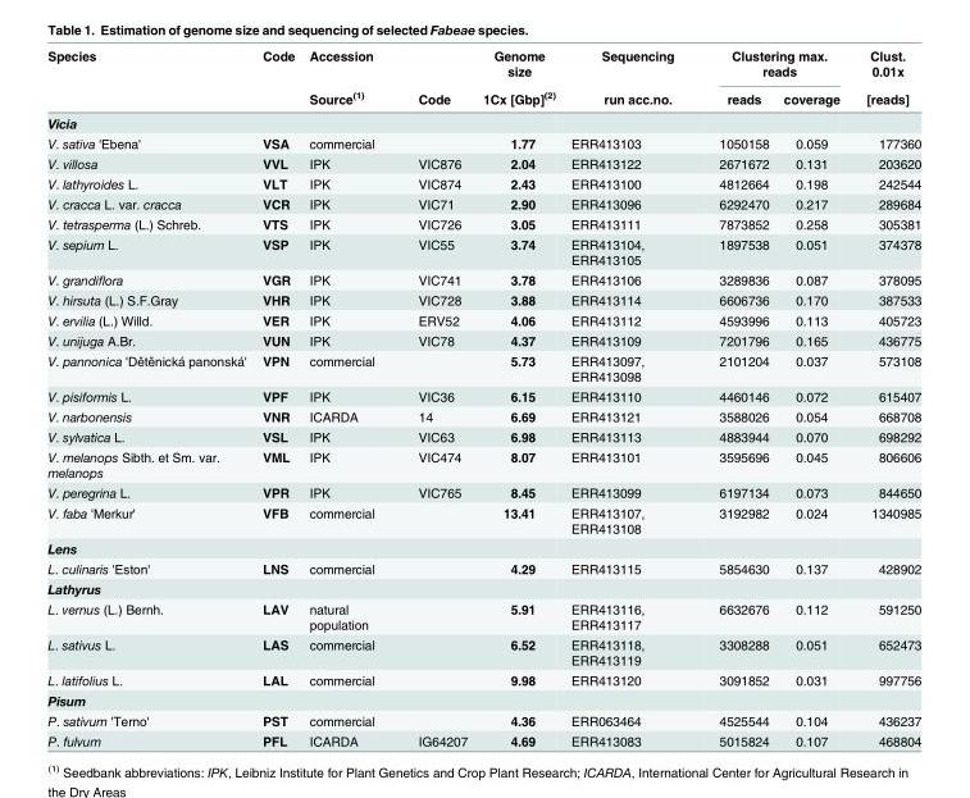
<table><thead><tr><td rowspan="2">Species</td><td rowspan="2">Code</td><td rowspan="2">Accession Source<sup>(1)</sup></td><td rowspan="2">Code</td><td rowspan="2">Genome size 1Cx [Gbp]<sup>(2)</sup></td><td rowspan="2">Sequencing run acc.no.</td><td colspan="2">Clustering max. reads</td><td rowspan="2">Clust. 0.01x [reads]</td></tr><tr><td>reads</td><td>coverage</td></tr></thead><tbody><tr><td colspan="9">Vicia</td></tr><tr><td>V. sativa &#x27;Ebena&#x27;</td><td>VSA</td><td>commercial</td><td></td><td>1.77</td><td>ERR413103</td><td>1050158</td><td>0.059</td><td>177360</td></tr><tr><td>V. villosa</td><td>VVL</td><td>IPK</td><td>VIC876</td><td>2.04</td><td>ERR413122</td><td>2671672</td><td>0.131</td><td>203620</td></tr><tr><td>V. lathyroides L.</td><td>VLT</td><td>IPK</td><td>VIC874</td><td>2.43</td><td>ERR413100</td><td>4812664</td><td>0.198</td><td>242544</td></tr><tr><td>V. cracca L. var. cracca</td><td>VCR</td><td>IPK</td><td>VIC71</td><td>2.90</td><td>ERR413096</td><td>6292470</td><td>0.217</td><td>289684</td></tr><tr><td>V. tetrasperma (L.) Schreb.</td><td>VTS</td><td>IPK</td><td>VIC726</td><td>3.05</td><td>ERR413111</td><td>7873852</td><td>0.258</td><td>305381</td></tr><tr><td>V. sepium L.</td><td>VSP</td><td>IPK</td><td>VIC55</td><td>3.74</td><td>ERR413104, ERR413105</td><td>1897538</td><td>0.051</td><td>374378</td></tr><tr><td>V. grandiflora</td><td>VGR</td><td>IPK</td><td>VIC741</td><td>3.78</td><td>ERR413106</td><td>3289836</td><td>0.087</td><td>378095</td></tr><tr><td>V. hirsuta (L.) S.F.Gray</td><td>VHR</td><td>IPK</td><td>VIC728</td><td>3.88</td><td>ERR413114</td><td>6606736</td><td>0.170</td><td>387533</td></tr><tr><td>V. ervilia (L.) Willd.</td><td>VER</td><td>IPK</td><td>ERV52</td><td>4.06</td><td>ERR413112</td><td>4593996</td><td>0.113</td><td>405723</td></tr><tr><td>V. unijuga A.Br.</td><td>VUN</td><td>IPK</td><td>VIC78</td><td>4.37</td><td>ERR413109</td><td>7201796</td><td>0.165</td><td>436775</td></tr><tr><td>V. pannonica &#x27;Dětěnická panonská&#x27;</td><td>VPN</td><td>commercial</td><td></td><td>5.73</td><td>ERR413097, ERR413098</td><td>2101204</td><td>0.037</td><td>573108</td></tr><tr><td>V. pisiformis L.</td><td>VPF</td><td>IPK</td><td>VIC36</td><td>6.15</td><td>ERR413110</td><td>4460146</td><td>0.072</td><td>615407</td></tr><tr><td>V. narbonensis</td><td>VNR</td><td>ICARDA</td><td>14</td><td>6.69</td><td>ERR413121</td><td>3588026</td><td>0.054</td><td>668708</td></tr><tr><td>V. sylvatica L.</td><td>VSL</td><td>IPK</td><td>VIC63</td><td>6.98</td><td>ERR413113</td><td>4883944</td><td>0.070</td><td>698292</td></tr><tr><td>V. melanops Sibth. et Sm. var. melanops</td><td>VML</td><td>IPK</td><td>VIC474</td><td>8.07</td><td>ERR413101</td><td>3595696</td><td>0.045</td><td>806606</td></tr><tr><td>V. peregrina L.</td><td>VPR</td><td>IPK</td><td>VIC765</td><td>8.45</td><td>ERR413099</td><td>6197134</td><td>0.073</td><td>844650</td></tr><tr><td>V. faba &#x27;Merkur&#x27;</td><td>VFB</td><td>commercial</td><td></td><td>13.41</td><td>ERR413107, ERR413108</td><td>3192982</td><td>0.024</td><td>1340985</td></tr><tr><td colspan="9">Lens</td></tr><tr><td>L. culinaris &#x27;Eston&#x27;</td><td>LNS</td><td>commercial</td><td></td><td>4.29</td><td>ERR413115</td><td>5854630</td><td>0.137</td><td>428902</td></tr><tr><td colspan="9">Lathyrus</td></tr><tr><td>L. vernus (L.) Bernh.</td><td>LAV</td><td>natural population</td><td></td><td>5.91</td><td>ERR413116, ERR413117</td><td>6632676</td><td>0.112</td><td>591250</td></tr><tr><td>L. sativus L.</td><td>LAS</td><td>commercial</td><td></td><td>6.52</td><td>ERR413118, ERR413119</td><td>3308288</td><td>0.051</td><td>652473</td></tr><tr><td>L. latifolius L.</td><td>LAL</td><td>commercial</td><td></td><td>9.98</td><td>ERR413120</td><td>3091852</td><td>0.031</td><td>997756</td></tr><tr><td colspan="9">Pisum</td></tr><tr><td>P. sativum &#x27;Terno&#x27;</td><td>PST</td><td>commercial</td><td></td><td>4.36</td><td>ERR063464</td><td>4525544</td><td>0.104</td><td>436237</td></tr><tr><td>P. fulvum</td><td>PFL</td><td>ICARDA</td><td>IG64207</td><td>4.69</td><td>ERR413083</td><td>5015824</td><td>0.107</td><td>468804</td></tr></tbody></table>